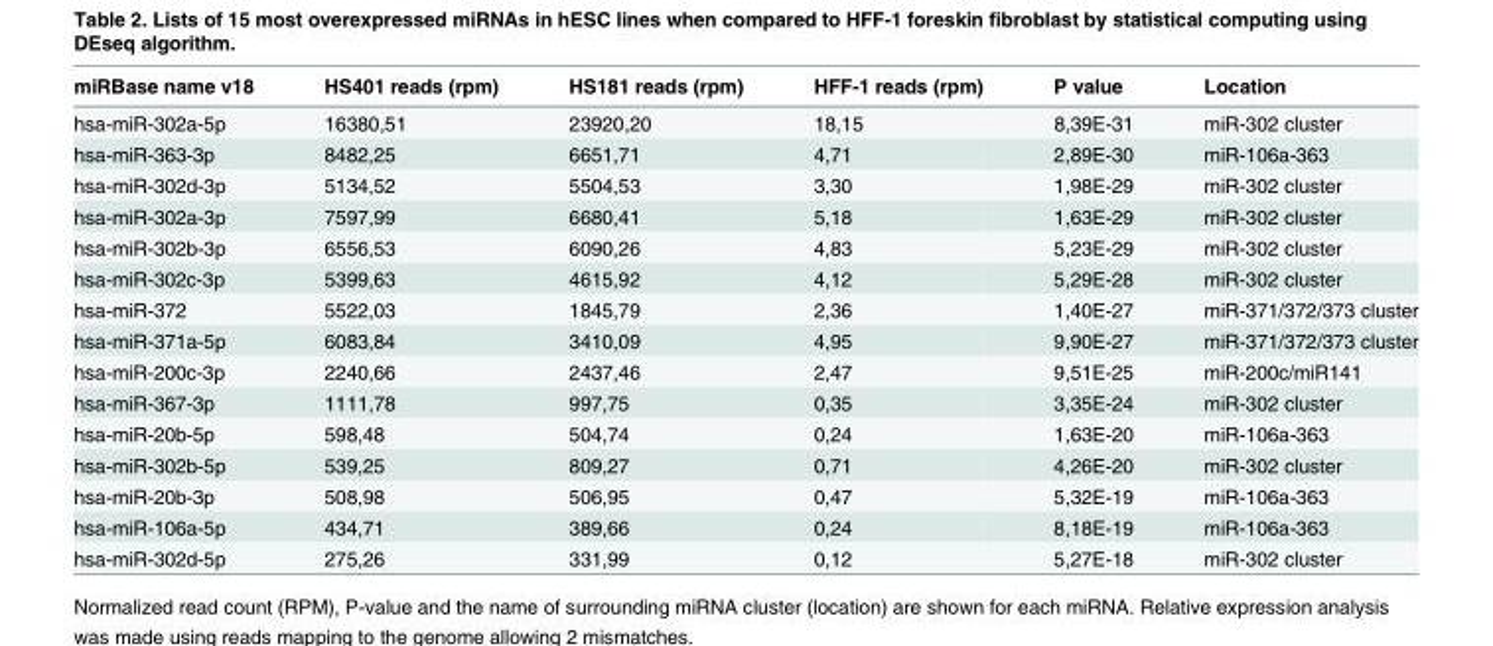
<table><thead><tr><td>miRBase name v18</td><td>HS401 reads (rpm)</td><td>HS181 reads (rpm)</td><td>HFF-1 reads (rpm)</td><td>P value</td><td>Location</td></tr></thead><tbody><tr><td>hsa-miR-302a-5p</td><td>16380,51</td><td>23920,20</td><td>18,15</td><td>8,39E-31</td><td>miR-302 cluster</td></tr><tr><td>hsa-miR-363-3p</td><td>8482,25</td><td>6651,71</td><td>4,71</td><td>2,89E-30</td><td>miR-106a-363</td></tr><tr><td>hsa-miR-302d-3p</td><td>5134,52</td><td>5504,53</td><td>3,30</td><td>1,98E-29</td><td>miR-302 cluster</td></tr><tr><td>hsa-miR-302a-3p</td><td>7597,99</td><td>6680,41</td><td>5,18</td><td>1,63E-29</td><td>miR-302 cluster</td></tr><tr><td>hsa-miR-302b-3p</td><td>6556,53</td><td>6090,26</td><td>4,83</td><td>5,23E-29</td><td>miR-302 cluster</td></tr><tr><td>hsa-miR-302c-3p</td><td>5399,63</td><td>4615,92</td><td>4,12</td><td>5,29E-28</td><td>miR-302 cluster</td></tr><tr><td>hsa-miR-372</td><td>5522,03</td><td>1845,79</td><td>2,36</td><td>1,40E-27</td><td>miR-371/372/373 cluster</td></tr><tr><td>hsa-miR-371a-5p</td><td>6083,84</td><td>3410,09</td><td>4,95</td><td>9,90E-27</td><td>miR-371/372/373 cluster</td></tr><tr><td>hsa-miR-200c-3p</td><td>2240,66</td><td>2437,46</td><td>2,47</td><td>9,51E-25</td><td>miR-200c/miR141</td></tr><tr><td>hsa-miR-367-3p</td><td>1111,78</td><td>997,75</td><td>0,35</td><td>3,35E-24</td><td>miR-302 cluster</td></tr><tr><td>hsa-miR-20b-5p</td><td>598,48</td><td>504,74</td><td>0,24</td><td>1,63E-20</td><td>miR-106a-363</td></tr><tr><td>hsa-miR-302b-5p</td><td>539,25</td><td>809,27</td><td>0,71</td><td>4,26E-20</td><td>miR-302 cluster</td></tr><tr><td>hsa-miR-20b-3p</td><td>508,98</td><td>506,95</td><td>0,47</td><td>5,32E-19</td><td>miR-106a-363</td></tr><tr><td>hsa-miR-106a-5p</td><td>434,71</td><td>389,66</td><td>0,24</td><td>8,18E-19</td><td>miR-106a-363</td></tr><tr><td>hsa-miR-302d-5p</td><td>275,26</td><td>331,99</td><td>0,12</td><td>5,27E-18</td><td>miR-302 cluster</td></tr></tbody></table>